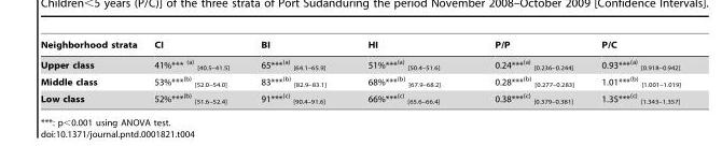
<table><thead><tr><td>Neighborhood strata</td><td>CI</td><td>BI</td><td>HI</td><td>P/P</td><td>P/C</td></tr></thead><tbody><tr><td>Upper class</td><td>41%*** <sup>(a)</sup> <sub>[40.5–41.5]</sub></td><td>65***<sup>(a)</sup> <sub>[64.1–65.9]</sub></td><td>51%***<sup>(a)</sup> <sub>[50.4–51.6]</sub></td><td>0.24***<sup>(a)</sup> <sub>[0.236–0.244]</sub></td><td>0.93***<sup>(a)</sup> <sub>[0.918–0.942]</sub></td></tr><tr><td>Middle class</td><td>53%***<sup>(b)</sup> <sub>[52.0–54.0]</sub></td><td>83***<sup>(b)</sup> <sub>[82.9–83.1]</sub></td><td>68%***<sup>(b)</sup> <sub>[67.9–68.2]</sub></td><td>0.28***<sup>(b)</sup> <sub>[0.277–0.283]</sub></td><td>1.01***<sup>(b)</sup> <sub>[1.001–1.019]</sub></td></tr><tr><td>Low class</td><td>52%***<sup>(b)</sup> <sub>[51.6–52.4]</sub></td><td>91***<sup>(c)</sup> <sub>[90.4–91.6]</sub></td><td>66%***<sup>(c)</sup> <sub>[65.6–66.4]</sub></td><td>0.38***<sup>(c)</sup> <sub>[0.379–0.381]</sub></td><td>1.35***<sup>(c)</sup> <sub>[1.343–1.357]</sub></td></tr></tbody></table>